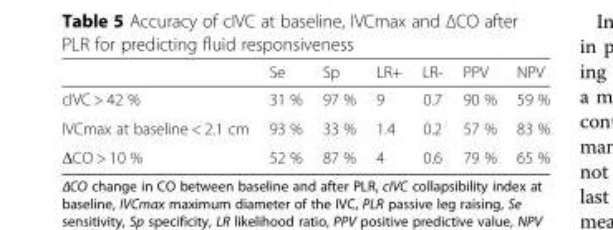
<table><thead><tr><td></td><td>Se</td><td>Sp</td><td>LR+</td><td>LR-</td><td>PPV</td><td>NPV</td></tr></thead><tbody><tr><td>cIVC &gt; 42 %</td><td>31 %</td><td>97 %</td><td>9</td><td>0.7</td><td>90 %</td><td>59 %</td></tr><tr><td>IVCmax at baseline &lt; 2.1 cm</td><td>93 %</td><td>33 %</td><td>1.4</td><td>0.2</td><td>57 %</td><td>83 %</td></tr><tr><td>ΔCO &gt; 10 %</td><td>52 %</td><td>87 %</td><td>4</td><td>0.6</td><td>79 %</td><td>65 %</td></tr></tbody></table>